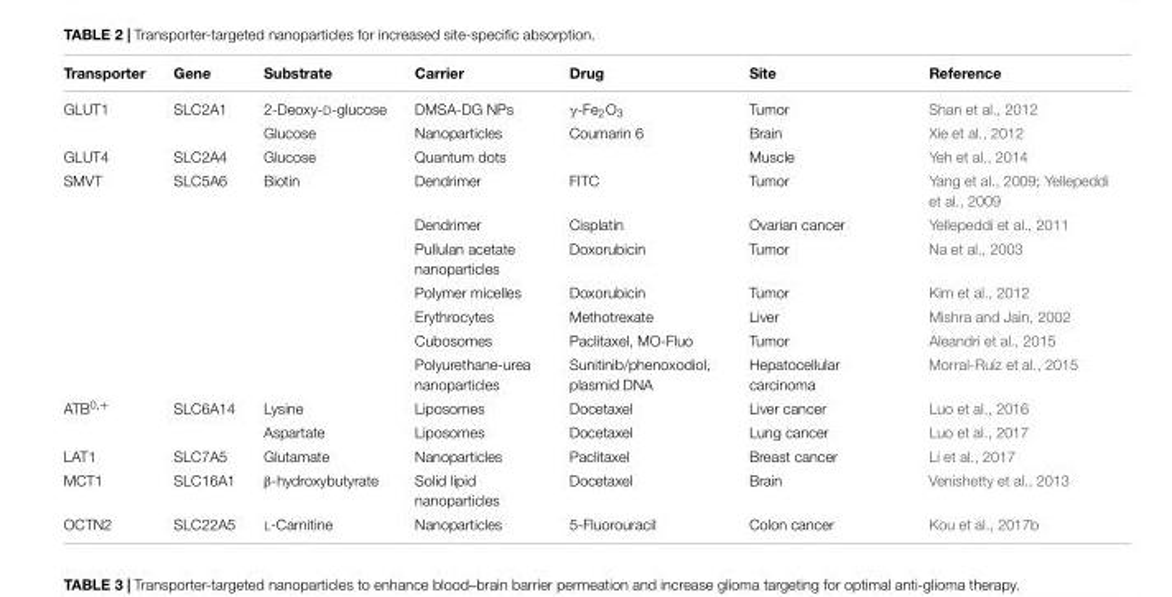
<table><thead><tr><td>Transporter</td><td>Gene</td><td>Substrate</td><td>Carrier</td><td>Drug</td><td>Site</td><td>Reference</td></tr></thead><tbody><tr><td rowspan="2">GLUT1</td><td>SLC2A1</td><td>2-Deoxy-D-glucose</td><td>DMSA-DG NPs</td><td>γ-Fe<sub>2</sub>O<sub>3</sub></td><td>Tumor</td><td>Shan et al., 2012</td></tr><tr><td></td><td>Glucose</td><td>Nanoparticles</td><td>Coumarin 6</td><td>Brain</td><td>Xie et al., 2012</td></tr><tr><td>GLUT4</td><td>SLC2A4</td><td>Glucose</td><td>Quantum dots</td><td></td><td>Muscle</td><td>Yeh et al., 2014</td></tr><tr><td rowspan="7">SMVT</td><td>SLC5A6</td><td>Biotin</td><td>Dendrimer</td><td>FITC</td><td>Tumor</td><td>Yang et al., 2009; Yellepeddi et al., 2009</td></tr><tr><td></td><td></td><td>Dendrimer</td><td>Cisplatin</td><td>Ovarian cancer</td><td>Yellepeddi et al., 2011</td></tr><tr><td></td><td></td><td>Pullulan acetate nanoparticles</td><td>Doxorubicin</td><td>Tumor</td><td>Na et al., 2003</td></tr><tr><td></td><td></td><td>Polymer micelles</td><td>Doxorubicin</td><td>Tumor</td><td>Kim et al., 2012</td></tr><tr><td></td><td></td><td>Erythrocytes</td><td>Methotrexate</td><td>Liver</td><td>Mishra and Jain, 2002</td></tr><tr><td></td><td></td><td>Cubosomes</td><td>Paclitaxel, MO-Fluo</td><td>Tumor</td><td>Aleandri et al., 2015</td></tr><tr><td></td><td></td><td>Polyurethane-urea nanoparticles</td><td>Sunitinib/phenoxodiol, plasmid DNA</td><td>Hepatocellular carcinoma</td><td>Morral-Ruíz et al., 2015</td></tr><tr><td rowspan="2">ATB<sup>0,+</sup></td><td>SLC6A14</td><td>Lysine</td><td>Liposomes</td><td>Docetaxel</td><td>Liver cancer</td><td>Luo et al., 2016</td></tr><tr><td></td><td>Aspartate</td><td>Liposomes</td><td>Docetaxel</td><td>Lung cancer</td><td>Luo et al., 2017</td></tr><tr><td>LAT1</td><td>SLC7A5</td><td>Glutamate</td><td>Nanoparticles</td><td>Paclitaxel</td><td>Breast cancer</td><td>Li et al., 2017</td></tr><tr><td>MCT1</td><td>SLC16A1</td><td>β-hydroxybutyrate</td><td>Solid lipid nanoparticles</td><td>Docetaxel</td><td>Brain</td><td>Venishetty et al., 2013</td></tr><tr><td>OCTN2</td><td>SLC22A5</td><td>L-Carnitine</td><td>Nanoparticles</td><td>5-Fluorouracil</td><td>Colon cancer</td><td>Kou et al., 2017b</td></tr></tbody></table>